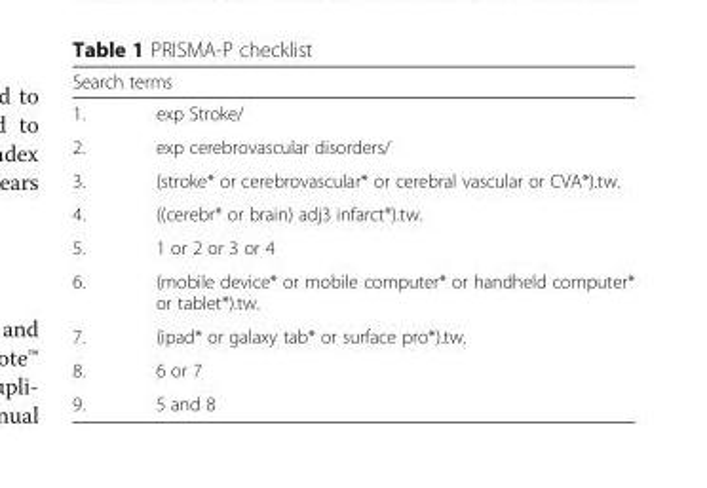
<table><thead><tr><td colspan="2">Search terms</td></tr><tr><td>1.</td><td>exp Stroke/</td></tr></thead><tbody><tr><td>2.</td><td>exp cerebrovascular disorders/</td></tr><tr><td>3.</td><td>(stroke* or cerebrovascular* or cerebral vascular or CVA*).tw.</td></tr><tr><td>4.</td><td>((cerebr* or brain) adj3 infarct*).tw.</td></tr><tr><td>5.</td><td>1 or 2 or 3 or 4</td></tr><tr><td>6.</td><td>(mobile device* or mobile computer* or handheld computer* or tablet*).tw.</td></tr><tr><td>7.</td><td>(ipad* or galaxy tab* or surface pro*).tw.</td></tr><tr><td>8.</td><td>6 or 7</td></tr><tr><td>9.</td><td>5 and 8</td></tr></tbody></table>